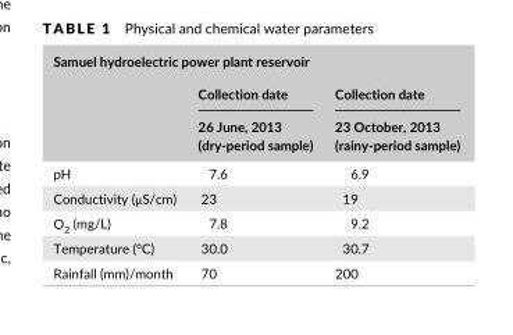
<table><thead><tr><td colspan="3">Samuel hydroelectric power plant reservoir</td></tr><tr><td rowspan="2"></td><td rowspan="2">Collection date 26 June, 2013 (dry- period sample)</td><td rowspan="2">Collection date 23 October, 2013 (rainy- period sample)</td></tr><tr></tr></thead><tbody><tr><td>pH</td><td>7.6</td><td>6.9</td></tr><tr><td>Conductivity (μS/cm)</td><td>23</td><td>19</td></tr><tr><td>O<sub>2</sub> (mg/L)</td><td>7.8</td><td>9.2</td></tr><tr><td>Temperature (°C)</td><td>30.0</td><td>30.7</td></tr><tr><td>Rainfall (mm)/month</td><td>70</td><td>200</td></tr></tbody></table>